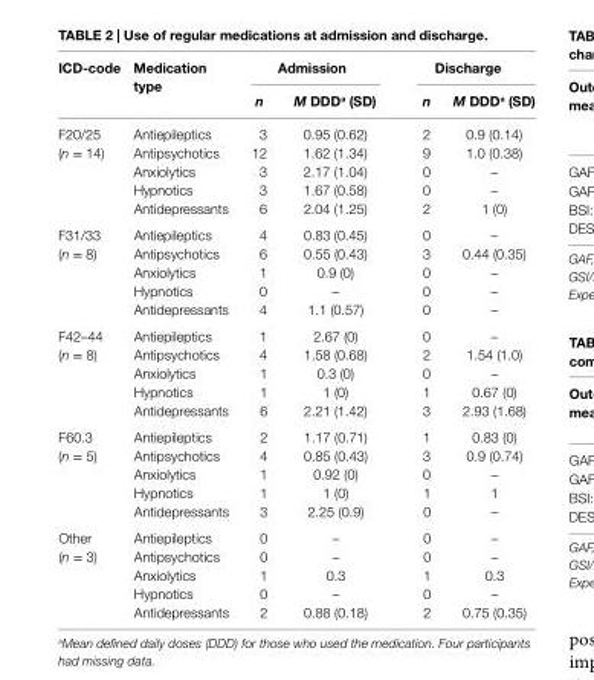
<table><thead><tr><td rowspan="2">icD-code</td><td rowspan="2">Medication type</td><td colspan="2">admission</td><td colspan="2">Discharge</td></tr><tr><td>n</td><td>M DDD<sup>a</sup> (sD)</td><td>n</td><td>M DDD<sup>a</sup> (sD)</td></tr></thead><tbody><tr><td rowspan="5">F20/25 (n = 14)</td><td>Antiepileptics</td><td>3</td><td>0.95 (0.62)</td><td>2</td><td>0.9 (0.14)</td></tr><tr><td>Antipsychotics</td><td>12</td><td>1.62 (1.34)</td><td>9</td><td>1.0 (0.38)</td></tr><tr><td>Anxiolytics</td><td>3</td><td>2.17 (1.04)</td><td>0</td><td>–</td></tr><tr><td>Hypnotics</td><td>3</td><td>1.67 (0.58)</td><td>0</td><td>–</td></tr><tr><td>Antidepressants</td><td>6</td><td>2.04 (1.25)</td><td>2</td><td>1 (0)</td></tr><tr><td rowspan="5">F31/33 (n = 8)</td><td>Antiepileptics</td><td>4</td><td>0.83 (0.45)</td><td>0</td><td>–</td></tr><tr><td>Antipsychotics</td><td>6</td><td>0.55 (0.43)</td><td>3</td><td>0.44 (0.35)</td></tr><tr><td>Anxiolytics</td><td>1</td><td>0.9 (0)</td><td>0</td><td>–</td></tr><tr><td>Hypnotics</td><td>0</td><td>–</td><td>0</td><td>–</td></tr><tr><td>Antidepressants</td><td>4</td><td>1.1 (0.57)</td><td>0</td><td>–</td></tr><tr><td rowspan="5">F42–44 (n = 8)</td><td>Antiepileptics</td><td>1</td><td>2.67 (0)</td><td>0</td><td>–</td></tr><tr><td>Antipsychotics</td><td>4</td><td>1.58 (0.68)</td><td>2</td><td>1.54 (1.0)</td></tr><tr><td>Anxiolytics</td><td>1</td><td>0.3 (0)</td><td>0</td><td>–</td></tr><tr><td>Hypnotics</td><td>1</td><td>1 (0)</td><td>1</td><td>0.67 (0)</td></tr><tr><td>Antidepressants</td><td>6</td><td>2.21 (1.42)</td><td>3</td><td>2.93 (1.68)</td></tr><tr><td rowspan="5">F60.3 (n = 5)</td><td>Antiepileptics</td><td>2</td><td>1.17 (0.71)</td><td>1</td><td>0.83 (0)</td></tr><tr><td>Antipsychotics</td><td>4</td><td>0.85 (0.43)</td><td>3</td><td>0.9 (0.74)</td></tr><tr><td>Anxiolytics</td><td>1</td><td>0.92 (0)</td><td>0</td><td>–</td></tr><tr><td>Hypnotics</td><td>1</td><td>1 (0)</td><td>1</td><td>1</td></tr><tr><td>Antidepressants</td><td>3</td><td>2.25 (0.9)</td><td>0</td><td>–</td></tr><tr><td rowspan="5">Other (n = 3)</td><td>Antiepileptics</td><td>0</td><td>–</td><td>0</td><td>–</td></tr><tr><td>Antipsychotics</td><td>0</td><td>–</td><td>0</td><td>–</td></tr><tr><td>Anxiolytics</td><td>1</td><td>0.3</td><td>1</td><td>0.3</td></tr><tr><td>Hypnotics</td><td>0</td><td>–</td><td>0</td><td>–</td></tr><tr><td>Antidepressants</td><td>2</td><td>0.88 (0.18)</td><td>2</td><td>0.75 (0.35)</td></tr></tbody></table>